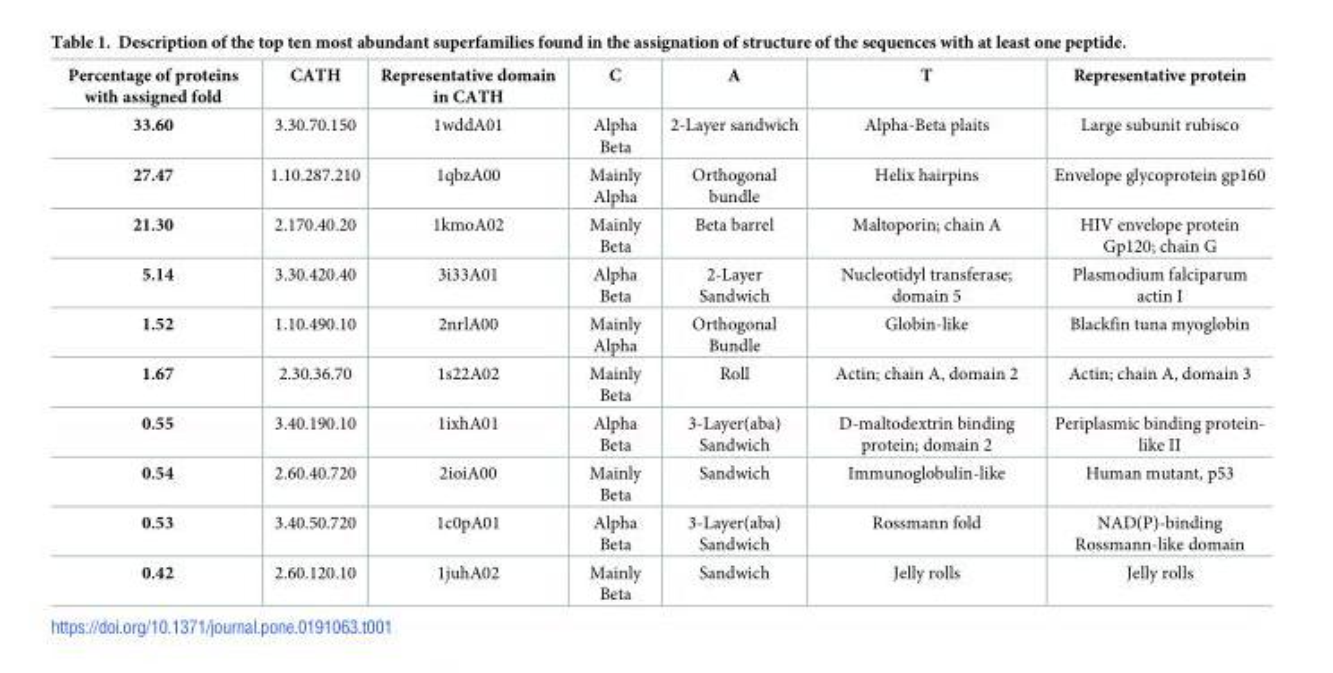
<table><thead><tr><td>Percentage of proteins with assigned fold</td><td>CATH</td><td>Representative domain in CATH</td><td>C</td><td>A</td><td>T</td><td>Representative protein</td></tr></thead><tbody><tr><td>33.60</td><td>3.30.70.150</td><td>1wddA01</td><td>Alpha Beta</td><td>2-Layer sandwich</td><td>Alpha-Beta plaits</td><td>Large subunit rubisco</td></tr><tr><td>27.47</td><td>1.10.287.210</td><td>1qbzA00</td><td>Mainly Alpha</td><td>Orthogonal bundle</td><td>Helix hairpins</td><td>Envelope glycoprotein gp160</td></tr><tr><td>21.30</td><td>2.170.40.20</td><td>1kmoA02</td><td>Mainly Beta</td><td>Beta barrel</td><td>Maltoporin; chain A</td><td>HIV envelope protein Gp120; chain G</td></tr><tr><td>5.14</td><td>3.30.420.40</td><td>3i33A01</td><td>Alpha Beta</td><td>2-Layer Sandwich</td><td>Nucleotidyl transferase; domain 5</td><td>Plasmodium falciparum actin I</td></tr><tr><td>1.52</td><td>1.10.490.10</td><td>2nrlA00</td><td>Mainly Alpha</td><td>Orthogonal Bundle</td><td>Globin-like</td><td>Blackfin tuna myoglobin</td></tr><tr><td>1.67</td><td>2.30.36.70</td><td>1s22A02</td><td>Mainly Beta</td><td>Roll</td><td>Actin; chain A, domain 2</td><td>Actin; chain A, domain 3</td></tr><tr><td>0.55</td><td>3.40.190.10</td><td>1ixhA01</td><td>Alpha Beta</td><td>3-Layer(aba) Sandwich</td><td>D-maltodextrin binding protein; domain 2</td><td>Periplasmic binding protein- like II</td></tr><tr><td>0.54</td><td>2.60.40.720</td><td>2ioiA00</td><td>Mainly Beta</td><td>Sandwich</td><td>Immunoglobulin-like</td><td>Human mutant, p53</td></tr><tr><td>0.53</td><td>3.40.50.720</td><td>1c0pA01</td><td>Alpha Beta</td><td>3-Layer(aba) Sandwich</td><td>Rossmann fold</td><td>NAD(P)-binding Rossmann-like domain</td></tr><tr><td>0.42</td><td>2.60.120.10</td><td>1juhA02</td><td>Mainly Beta</td><td>Sandwich</td><td>Jelly rolls</td><td>Jelly rolls</td></tr></tbody></table>